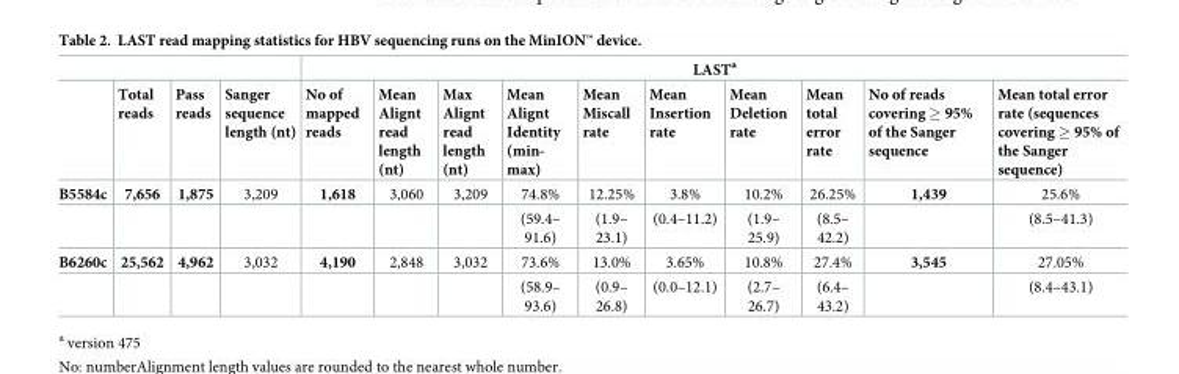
<table><thead><tr><td rowspan="2"></td><td rowspan="2">Total reads</td><td rowspan="2">Pass reads</td><td rowspan="2">Sanger sequence length (nt)</td><td colspan="10">LAST<sup>a</sup></td></tr><tr><td>No of mapped reads</td><td>Mean Alignt read length (nt)</td><td>Max Alignt read length (nt)</td><td>Mean Alignt Identity (min- max)</td><td>Mean Miscall rate</td><td>Mean Insertion rate</td><td>Mean Deletion rate</td><td>Mean total error rate</td><td>No of reads covering ≥ 95% of the Sanger sequence</td><td>Mean total error rate (sequences covering ≥ 95% of the Sanger sequence)</td></tr></thead><tbody><tr><td rowspan="2">B5584c</td><td>7,656</td><td>1,875</td><td>3,209</td><td>1,618</td><td>3,060</td><td>3,209</td><td>74.8%</td><td>12.25%</td><td>3.8%</td><td>10.2%</td><td>26.25%</td><td>1,439</td><td>25.6%</td></tr><tr><td></td><td></td><td></td><td></td><td></td><td></td><td>(59.4– 91.6)</td><td>(1.9– 23.1)</td><td>(0.4–11.2)</td><td>(1.9– 25.9)</td><td>(8.5– 42.2)</td><td></td><td>(8.5–41.3)</td></tr><tr><td rowspan="2">B6260c</td><td>25,562</td><td>4,962</td><td>3,032</td><td>4,190</td><td>2,848</td><td>3,032</td><td>73.6%</td><td>13.0%</td><td>3.65%</td><td>10.8%</td><td>27.4%</td><td>3,545</td><td>27.05%</td></tr><tr><td></td><td></td><td></td><td></td><td></td><td></td><td>(58.9– 93.6)</td><td>(0.9– 26.8)</td><td>(0.0–12.1)</td><td>(2.7– 26.7)</td><td>(6.4– 43.2)</td><td></td><td>(8.4–43.1)</td></tr></tbody></table>